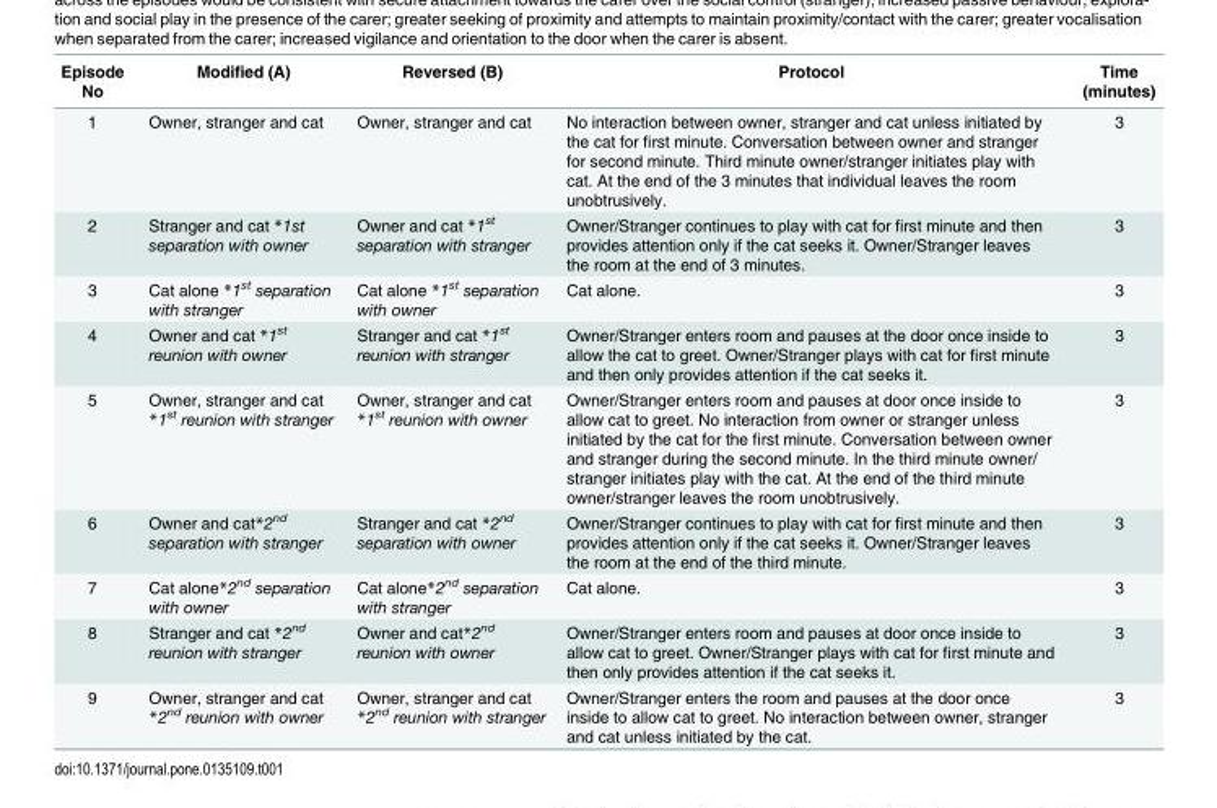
<table><thead><tr><td>Episode No</td><td>Modified (A)</td><td>Reversed (B)</td><td>Protocol</td><td>Time (minutes)</td></tr></thead><tbody><tr><td>1</td><td>Owner, stranger and cat</td><td>Owner, stranger and cat</td><td>No interaction between owner, stranger and cat unless initiated by the cat for first minute. Conversation between owner and stranger for second minute. Third minute owner/stranger initiates play with cat. At the end of the 3 minutes that individual leaves the room unobtrusively.</td><td>3</td></tr><tr><td>2</td><td>Stranger and cat *1st separation with owner</td><td>Owner and cat *1<sup>st</sup> separation with stranger</td><td>Owner/Stranger continues to play with cat for first minute and then provides attention only if the cat seeks it. Owner/Stranger leaves the room at the end of 3 minutes.</td><td>3</td></tr><tr><td>3</td><td>Cat alone *1<sup>st</sup> separation with stranger</td><td>Cat alone *1<sup>st</sup> separation with owner</td><td>Cat alone.</td><td>3</td></tr><tr><td>4</td><td>Owner and cat *1<sup>st</sup> reunion with owner</td><td>Stranger and cat *1<sup>st</sup> reunion with stranger</td><td>Owner/Stranger enters room and pauses at the door once inside to allow the cat to greet. Owner/Stranger plays with cat for first minute and then only provides attention if the cat seeks it.</td><td>3</td></tr><tr><td>5</td><td>Owner, stranger and cat *1<sup>st</sup> reunion with stranger</td><td>Owner, stranger and cat *1<sup>st</sup> reunion with owner</td><td>Owner/Stranger enters room and pauses at door once inside to allow cat to greet. No interaction from owner or stranger unless initiated by the cat for the first minute. Conversation between owner and stranger during the second minute. In the third minute owner/ stranger initiates play with the cat. At the end of the third minute owner/stranger leaves the room unobtrusively.</td><td>3</td></tr><tr><td>6</td><td>Owner and cat*2<sup>nd</sup> separation with stranger</td><td>Stranger and cat *2<sup>nd</sup> separation with owner</td><td>Owner/Stranger continues to play with cat for first minute and then provides attention only if the cat seeks it. Owner/Stranger leaves the room at the end of the third minute.</td><td>3</td></tr><tr><td>7</td><td>Cat alone*2<sup>nd</sup> separation with owner</td><td>Cat alone*2<sup>nd</sup> separation with stranger</td><td>Cat alone.</td><td>3</td></tr><tr><td>8</td><td>Stranger and cat *2<sup>nd</sup> reunion with stranger</td><td>Owner and cat*2<sup>nd</sup> reunion with owner</td><td>Owner/Stranger enters room and pauses at door once inside to allow cat to greet. Owner/Stranger plays with cat for first minute and then only provides attention if the cat seeks it.</td><td>3</td></tr><tr><td>9</td><td>Owner, stranger and cat *2<sup>nd</sup> reunion with owner</td><td>Owner, stranger and cat *2<sup>nd</sup> reunion with stranger</td><td>Owner/Stranger enters the room and pauses at the door once inside to allow cat to greet. No interaction between owner, stranger and cat unless initiated by the cat.</td><td>3</td></tr></tbody></table>